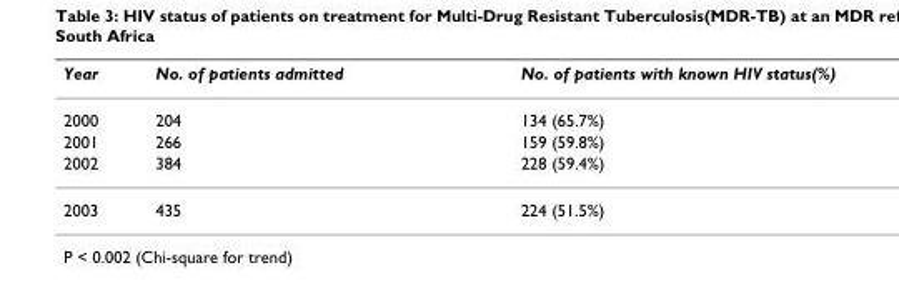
<table><thead><tr><td>Year</td><td>No. of patients admitted</td><td>No. of patients with known HIV status(%)</td></tr></thead><tbody><tr><td>2000</td><td>204</td><td>134 (65.7%)</td></tr><tr><td>2001</td><td>266</td><td>159 (59.8%)</td></tr><tr><td>2002</td><td>384</td><td>228 (59.4%)</td></tr><tr><td>2003</td><td>435</td><td>224 (51.5%)</td></tr></tbody></table>